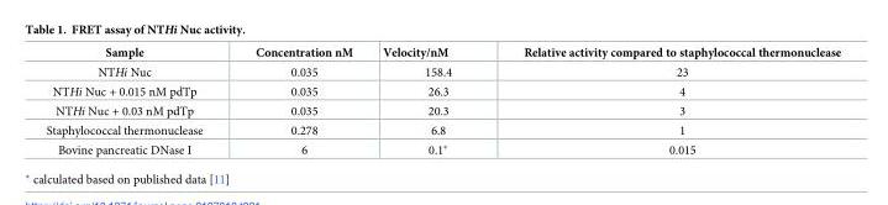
<table><thead><tr><td>Sample</td><td>Concentration nM</td><td>Velocity/nM</td><td>Relative activity compared to staphylococcal thermonuclease</td></tr></thead><tbody><tr><td>NTHi Nuc</td><td>0.035</td><td>158.4</td><td>23</td></tr><tr><td>NTHi Nuc + 0.015 nM pdTp</td><td>0.035</td><td>26.3</td><td>4</td></tr><tr><td>NTHi Nuc + 0.03 nM pdTp</td><td>0.035</td><td>20.3</td><td>3</td></tr><tr><td>Staphylococcal thermonuclease</td><td>0.278</td><td>6.8</td><td>1</td></tr><tr><td>Bovine pancreatic DNase I</td><td>6</td><td>0.1*</td><td>0.015</td></tr></tbody></table>